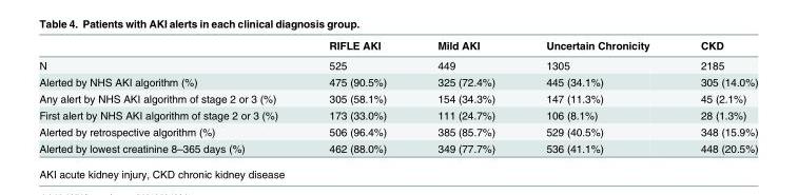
<table><thead><tr><td></td><td>RIFLE AKI</td><td>Mild AKI</td><td>Uncertain Chronicity</td><td>CKD</td></tr></thead><tbody><tr><td>N</td><td>525</td><td>449</td><td>1305</td><td>2185</td></tr><tr><td>Alerted by NHS AKI algorithm (%)</td><td>475 (90.5%)</td><td>325 (72.4%)</td><td>445 (34.1%)</td><td>305 (14.0%)</td></tr><tr><td>Any alert by NHS AKI algorithm of stage 2 or 3 (%)</td><td>305 (58.1%)</td><td>154 (34.3%)</td><td>147 (11.3%)</td><td>45 (2.1%)</td></tr><tr><td>First alert by NHS AKI algorithm of stage 2 or 3 (%)</td><td>173 (33.0%)</td><td>111 (24.7%)</td><td>106 (8.1%)</td><td>28 (1.3%)</td></tr><tr><td>Alerted by retrospective algorithm (%)</td><td>506 (96.4%)</td><td>385 (85.7%)</td><td>529 (40.5%)</td><td>348 (15.9%)</td></tr><tr><td>Alerted by lowest creatinine 8–365 days (%)</td><td>462 (88.0%)</td><td>349 (77.7%)</td><td>536 (41.1%)</td><td>448 (20.5%)</td></tr></tbody></table>